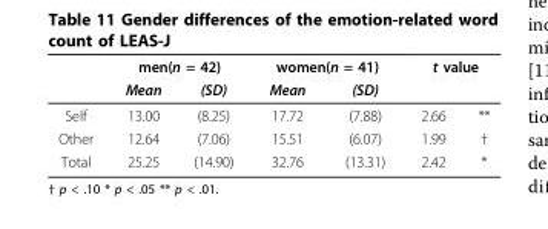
<table><thead><tr><td rowspan="2"></td><td colspan="2">men(n = 42)</td><td colspan="2">women(n = 41)</td><td colspan="2">t value</td></tr><tr><td>Mean</td><td>(SD)</td><td>Mean</td><td>(SD)</td><td></td><td></td></tr></thead><tbody><tr><td>Self</td><td>13.00</td><td>(8.25)</td><td>17.72</td><td>(7.88)</td><td>2.66</td><td>**</td></tr><tr><td>Other</td><td>12.64</td><td>(7.06)</td><td>15.51</td><td>(6.07)</td><td>1.99</td><td>†</td></tr><tr><td>Total</td><td>25.25</td><td>(14.90)</td><td>32.76</td><td>(13.31)</td><td>2.42</td><td>*</td></tr></tbody></table>